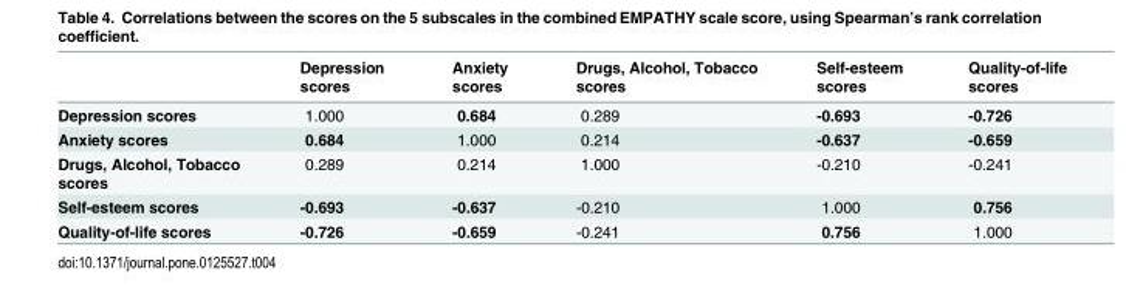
<table><thead><tr><td></td><td>Depression scores</td><td>Anxiety scores</td><td>Drugs, Alcohol, Tobacco scores</td><td>Self-esteem scores</td><td>Quality-of-life scores</td></tr></thead><tbody><tr><td>Depression scores</td><td>1.000</td><td>0.684</td><td>0.289</td><td>-0.693</td><td>-0.726</td></tr><tr><td>Anxiety scores</td><td>0.684</td><td>1.000</td><td>0.214</td><td>-0.637</td><td>-0.659</td></tr><tr><td>Drugs, Alcohol, Tobacco scores</td><td>0.289</td><td>0.214</td><td>1.000</td><td>-0.210</td><td>-0.241</td></tr><tr><td>Self-esteem scores</td><td>-0.693</td><td>-0.637</td><td>-0.210</td><td>1.000</td><td>0.756</td></tr><tr><td>Quality-of-life scores</td><td>-0.726</td><td>-0.659</td><td>-0.241</td><td>0.756</td><td>1.000</td></tr></tbody></table>